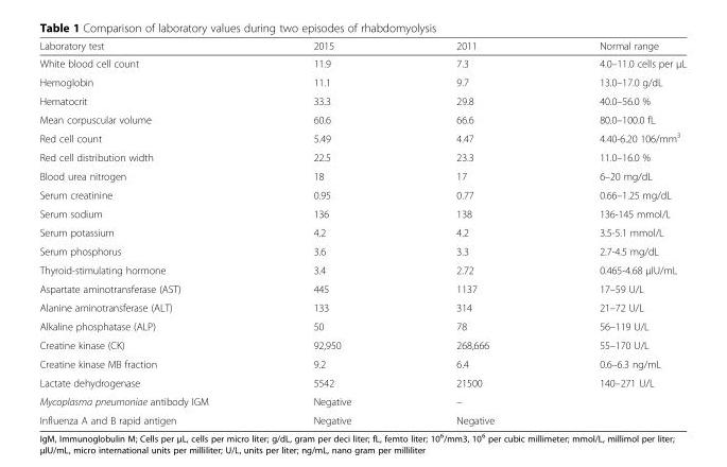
<table><thead><tr><td>Laboratory test</td><td>2015</td><td>2011</td><td>Normal range</td></tr></thead><tbody><tr><td>White blood cell count</td><td>11.9</td><td>7.3</td><td>4.0–11.0 cells per μL</td></tr><tr><td>Hemoglobin</td><td>11.1</td><td>9.7</td><td>13.0–17.0 g/dL</td></tr><tr><td>Hematocrit</td><td>33.3</td><td>29.8</td><td>40.0–56.0 %</td></tr><tr><td>Mean corpuscular volume</td><td>60.6</td><td>66.6</td><td>80.0–100.0 fL</td></tr><tr><td>Red cell count</td><td>5.49</td><td>4.47</td><td>4.40-6.20 106/mm<sup>3</sup></td></tr><tr><td>Red cell distribution width</td><td>22.5</td><td>23.3</td><td>11.0–16.0 %</td></tr><tr><td>Blood urea nitrogen</td><td>18</td><td>17</td><td>6–20 mg/dL</td></tr><tr><td>Serum creatinine</td><td>0.95</td><td>0.77</td><td>0.66–1.25 mg/dL</td></tr><tr><td>Serum sodium</td><td>136</td><td>138</td><td>136-145 mmol/L</td></tr><tr><td>Serum potassium</td><td>4.2</td><td>4.2</td><td>3.5-5.1 mmol/L</td></tr><tr><td>Serum phosphorus</td><td>3.6</td><td>3.3</td><td>2.7-4.5 mg/dL</td></tr><tr><td>Thyroid-stimulating hormone</td><td>3.4</td><td>2.72</td><td>0.465-4.68 μIU/mL</td></tr><tr><td>Aspartate aminotransferase (AST)</td><td>445</td><td>1137</td><td>17–59 U/L</td></tr><tr><td>Alanine aminotransferase (ALT)</td><td>133</td><td>314</td><td>21–72 U/L</td></tr><tr><td>Alkaline phosphatase (ALP)</td><td>50</td><td>78</td><td>56–119 U/L</td></tr><tr><td>Creatine kinase (CK)</td><td>92,950</td><td>268,666</td><td>55–170 U/L</td></tr><tr><td>Creatine kinase MB fraction</td><td>9.2</td><td>6.4</td><td>0.6–6.3 ng/mL</td></tr><tr><td>Lactate dehydrogenase</td><td>5542</td><td>21500</td><td>140–271 U/L</td></tr><tr><td>Mycoplasma pneumoniae antibody IGM</td><td>Negative</td><td>–</td><td></td></tr><tr><td>Influenza A and B rapid antigen</td><td>Negative</td><td>Negative</td><td></td></tr></tbody></table>